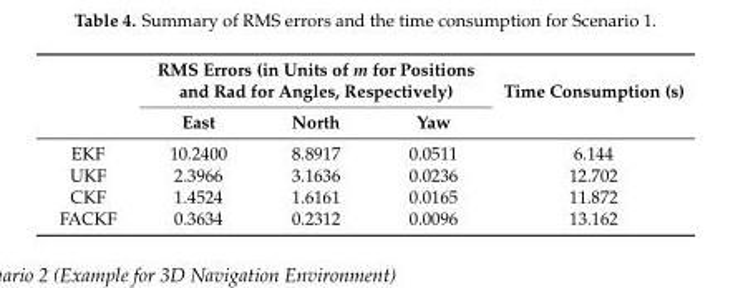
<table><thead><tr><td rowspan="2"></td><td colspan="3">RMS Errors (in Units of m for Positions and Rad for Angles, Respectively)</td><td rowspan="2">Time Consumption (s)</td></tr><tr><td>East</td><td>North</td><td>Yaw</td></tr></thead><tbody><tr><td>EKF</td><td>10.2400</td><td>8.8917</td><td>0.0511</td><td>6.144</td></tr><tr><td>UKF</td><td>2.3966</td><td>3.1636</td><td>0.0236</td><td>12.702</td></tr><tr><td>CKF</td><td>1.4524</td><td>1.6161</td><td>0.0165</td><td>11.872</td></tr><tr><td>FACKF</td><td>0.3634</td><td>0.2312</td><td>0.0096</td><td>13.162</td></tr></tbody></table>